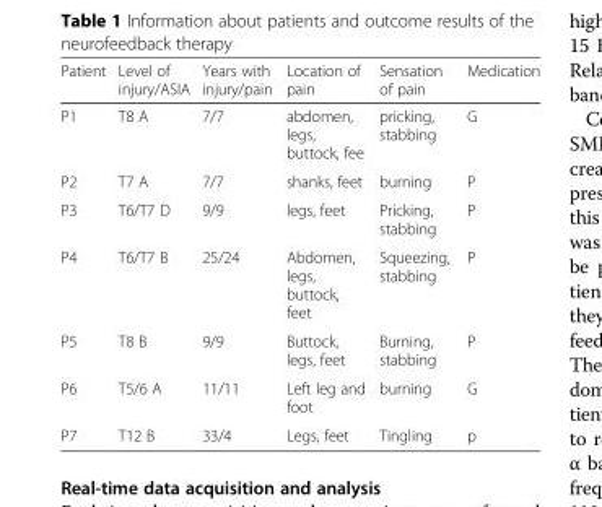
<table><thead><tr><td>Patient</td><td>Level of injury/ASIA</td><td>Years with injury/pain</td><td>Location of pain</td><td>Sensation of pain</td><td>Medication</td></tr></thead><tbody><tr><td>P1</td><td>T8 A</td><td>7/7</td><td>abdomen, legs, buttock, fee</td><td>pricking, stabbing</td><td>G</td></tr><tr><td>P2</td><td>T7 A</td><td>7/7</td><td>shanks, feet</td><td>burning</td><td>P</td></tr><tr><td>P3</td><td>T6/T7 D</td><td>9/9</td><td>legs, feet</td><td>Pricking, stabbing</td><td>P</td></tr><tr><td>P4</td><td>T6/T7 B</td><td>25/24</td><td>Abdomen, legs, buttock, feet</td><td>Squeezing, stabbing</td><td>P</td></tr><tr><td>P5</td><td>T8 B</td><td>9/9</td><td>Buttock, legs, feet</td><td>Burning, stabbing</td><td>P</td></tr><tr><td>P6</td><td>T5/6 A</td><td>11/11</td><td>Left leg and foot</td><td>burning</td><td>G</td></tr><tr><td>P7</td><td>T12 B</td><td>33/4</td><td>Legs, feet</td><td>Tingling</td><td>p</td></tr></tbody></table>